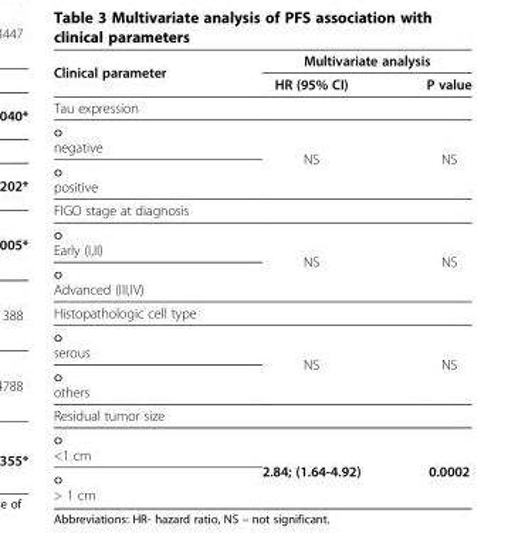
<table><thead><tr><td rowspan="2">Clinical parameter</td><td colspan="2">Multivariate analysis</td></tr><tr><td>HR (95% CI)</td><td>P value</td></tr></thead><tbody><tr><td colspan="3">Tau expression</td></tr><tr><td>o negative</td><td rowspan="2">NS</td><td rowspan="2">NS</td></tr><tr><td>o positive</td></tr><tr><td colspan="3">FIGO stage at diagnosis</td></tr><tr><td>o Early (I,II)</td><td rowspan="2">NS</td><td rowspan="2">NS</td></tr><tr><td>o Advanced (III,IV)</td></tr><tr><td colspan="3">Histopathologic cell type</td></tr><tr><td>o serous</td><td rowspan="2">NS</td><td rowspan="2">NS</td></tr><tr><td>o others</td></tr><tr><td colspan="3">Residual tumor size</td></tr><tr><td>o &lt;1 cm</td><td rowspan="2">2.84; (1.64-4.92)</td><td rowspan="2">0.0002</td></tr><tr><td>o &gt; 1 cm</td></tr></tbody></table>